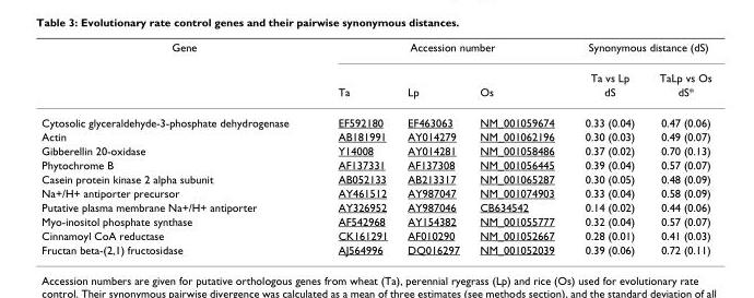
<table><thead><tr><td rowspan="3">Gene</td><td colspan="3">Accession number</td><td colspan="2">Synonymous distance (dS)</td></tr><tr><td rowspan="2">Ta</td><td rowspan="2">Lp</td><td rowspan="2">Os</td><td rowspan="2">Ta vs Lp dS</td><td rowspan="2">TaLp vs Os dS*</td></tr><tr></tr></thead><tbody><tr><td>Cytosolic glyceraldehyde-3-phosphate dehydrogenase</td><td>EF592180</td><td>EF463063</td><td>NM_001059674</td><td>0.33 (0.04)</td><td>0.47 (0.06)</td></tr><tr><td>Actin</td><td>AB181991</td><td>AY014279</td><td>NM_001062196</td><td>0.30 (0.03)</td><td>0.49 (0.07)</td></tr><tr><td>Gibberellin 20-oxidase</td><td>Y14008</td><td>AY014281</td><td>NM_001058486</td><td>0.37 (0.02)</td><td>0.70 (0.13)</td></tr><tr><td>Phytochrome B</td><td>AF137331</td><td>AF137308</td><td>NM_001056445</td><td>0.39 (0.04)</td><td>0.57 (0.07)</td></tr><tr><td>Casein protein kinase 2 alpha subunit</td><td>AB052133</td><td>AB213317</td><td>NM_001065287</td><td>0.30 (0.05)</td><td>0.48 (0.09)</td></tr><tr><td>Na+/H+ antiporter precursor</td><td>AY461512</td><td>AY987047</td><td>NM_001074903</td><td>0.33 (0.04)</td><td>0.58 (0.09)</td></tr><tr><td>Putative plasma membrane Na+/H+ antiporter</td><td>AY326952</td><td>AY987046</td><td>CB634542</td><td>0.14 (0.02)</td><td>0.44 (0.06)</td></tr><tr><td>Myo-inositol phosphate synthase</td><td>AF542968</td><td>AY154382</td><td>NM_001055777</td><td>0.32 (0.04)</td><td>0.57 (0.07)</td></tr><tr><td>Cinnamoyl CoA reductase</td><td>CK161291</td><td>AF010290</td><td>NM_001052667</td><td>0.28 (0.01)</td><td>0.41 (0.03)</td></tr><tr><td>Fructan beta-(2,1) fructosidase</td><td>AJ564996</td><td>DQ016297</td><td>NM_001052039</td><td>0.39 (0.06)</td><td>0.72 (0.11)</td></tr></tbody></table>